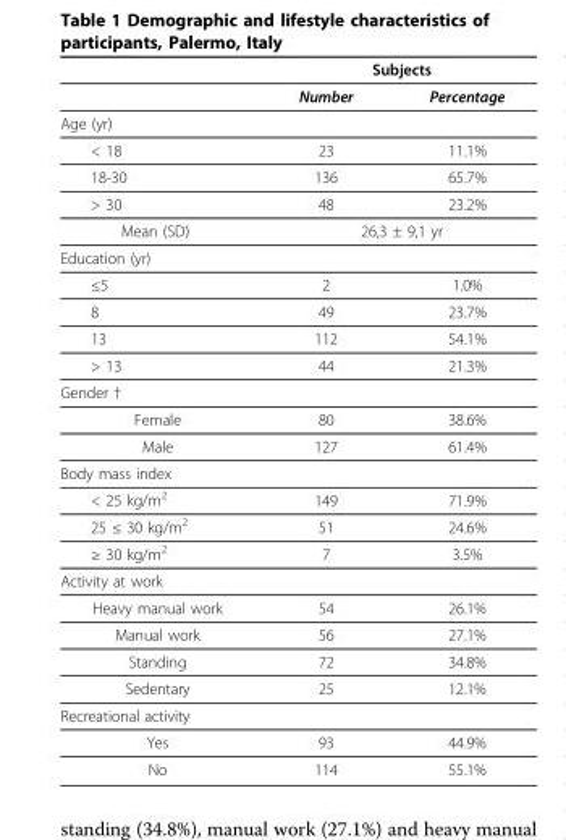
<table><thead><tr><td rowspan="2"></td><td colspan="2">Subjects</td></tr><tr><td>Number</td><td>Percentage</td></tr></thead><tbody><tr><td colspan="3">Age (yr)</td></tr><tr><td>&lt; 18</td><td>23</td><td>11.1%</td></tr><tr><td>18-30</td><td>136</td><td>65.7%</td></tr><tr><td>&gt; 30</td><td>48</td><td>23.2%</td></tr><tr><td>Mean (SD)</td><td colspan="2">26,3 ± 9,1 yr</td></tr><tr><td colspan="3">Education (yr)</td></tr><tr><td>≤5</td><td>2</td><td>1.0%</td></tr><tr><td>8</td><td>49</td><td>23.7%</td></tr><tr><td>13</td><td>112</td><td>54.1%</td></tr><tr><td>&gt; 13</td><td>44</td><td>21.3%</td></tr><tr><td colspan="3">Gender †</td></tr><tr><td>Female</td><td>80</td><td>38.6%</td></tr><tr><td>Male</td><td>127</td><td>61.4%</td></tr><tr><td colspan="3">Body mass index</td></tr><tr><td>&lt; 25 kg/m2</td><td>149</td><td>71.9%</td></tr><tr><td>25 ≤ 30 kg/m2</td><td>51</td><td>24.6%</td></tr><tr><td>≥ 30 kg/m2</td><td>7</td><td>3.5%</td></tr><tr><td colspan="3">Activity at work</td></tr><tr><td>Heavy manual work</td><td>54</td><td>26.1%</td></tr><tr><td>Manual work</td><td>56</td><td>27.1%</td></tr><tr><td>Standing</td><td>72</td><td>34.8%</td></tr><tr><td>Sedentary</td><td>25</td><td>12.1%</td></tr><tr><td colspan="3">Recreational activity</td></tr><tr><td>Yes</td><td>93</td><td>44.9%</td></tr><tr><td>No</td><td>114</td><td>55.1%</td></tr></tbody></table>